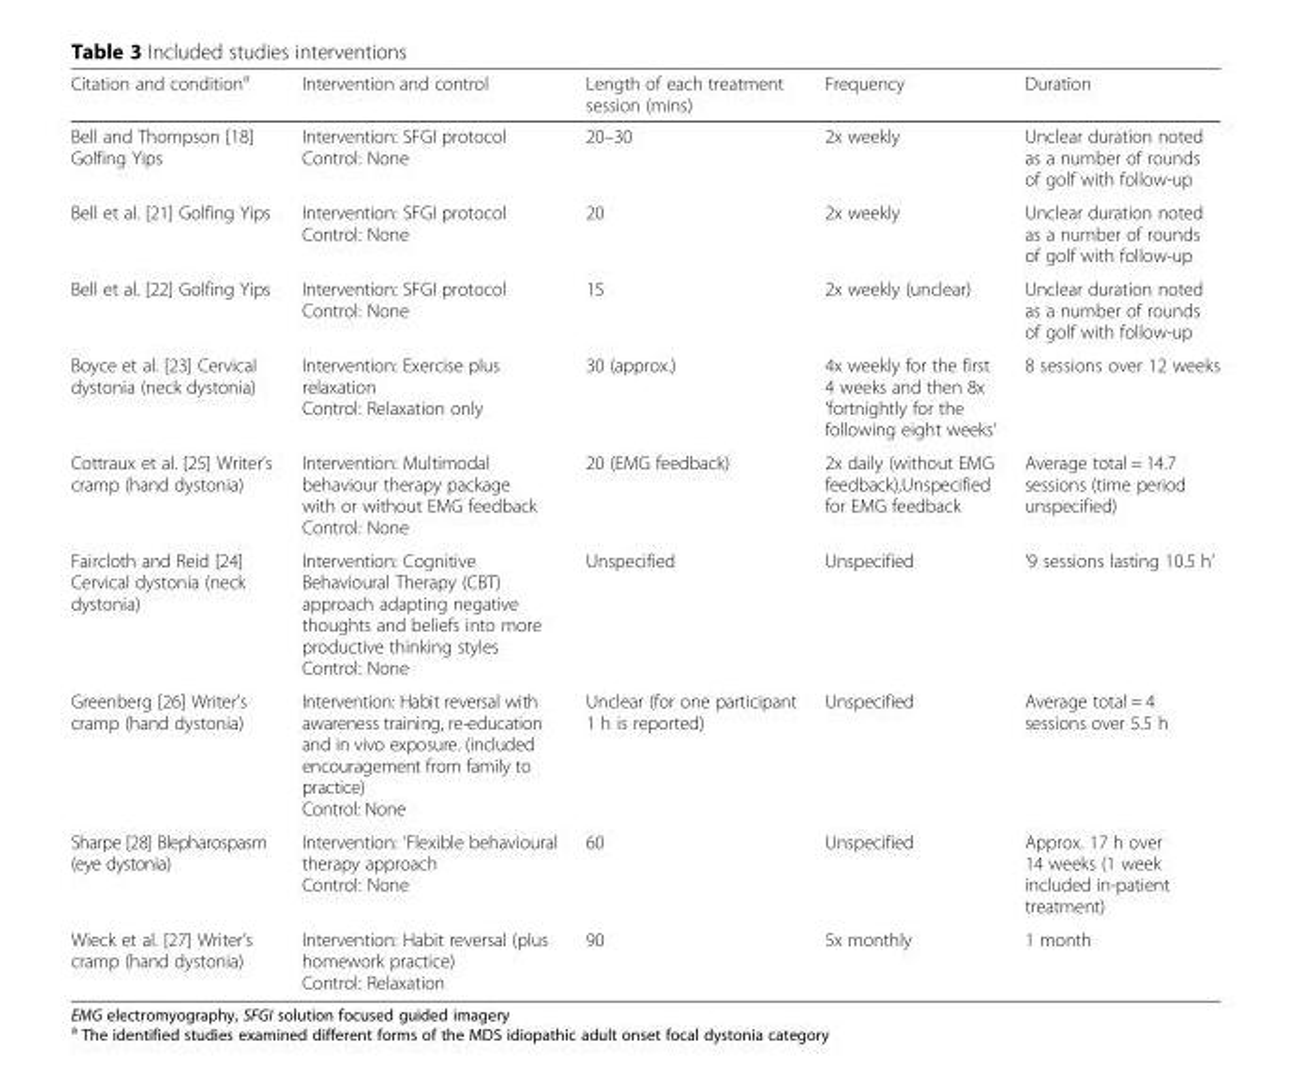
<table><thead><tr><td>Citation and condition<sup>a</sup></td><td>Intervention and control</td><td>Length of each treatment session (mins)</td><td>Frequency</td><td>Duration</td></tr></thead><tbody><tr><td>Bell and Thompson [18] Golfing Yips</td><td>Intervention: SFGI protocol Control: None</td><td>20–30</td><td>2x weekly</td><td>Unclear duration noted as a number of rounds of golf with follow-up</td></tr><tr><td>Bell et al. [21] Golfing Yips</td><td>Intervention: SFGI protocol Control: None</td><td>20</td><td>2x weekly</td><td>Unclear duration noted as a number of rounds of golf with follow-up</td></tr><tr><td>Bell et al. [22] Golfing Yips</td><td>Intervention: SFGI protocol Control: None</td><td>15</td><td>2x weekly (unclear)</td><td>Unclear duration noted as a number of rounds of golf with follow-up</td></tr><tr><td>Boyce et al. [23] Cervical dystonia (neck dystonia)</td><td>Intervention: Exercise plus relaxation Control: Relaxation only</td><td>30 (approx.)</td><td>4x weekly for the first 4 weeks and then 8x ‘fortnightly for the following eight weeks’</td><td>8 sessions over 12 weeks</td></tr><tr><td>Cottraux et al. [25] Writer’s cramp (hand dystonia)</td><td>Intervention: Multimodal behaviour therapy package with or without EMG feedback Control: None</td><td>20 (EMG feedback)</td><td>2x daily (without EMG feedback),Unspecified for EMG feedback</td><td>Average total = 14.7 sessions (time period unspecified)</td></tr><tr><td>Faircloth and Reid [24] Cervical dystonia (neck dystonia)</td><td>Intervention: Cognitive Behavioural Therapy (CBT) approach adapting negative thoughts and beliefs into more productive thinking styles Control: None</td><td>Unspecified</td><td>Unspecified</td><td>‘9 sessions lasting 10.5 h’</td></tr><tr><td>Greenberg [26] Writer’s cramp (hand dystonia)</td><td>Intervention: Habit reversal with awareness training, re-education and in vivo exposure. (included encouragement from family to practice) Control: None</td><td>Unclear (for one participant 1 h is reported)</td><td>Unspecified</td><td>Average total = 4 sessions over 5.5 h</td></tr><tr><td>Sharpe [28] Blepharospasm (eye dystonia)</td><td>Intervention: ‘Flexible behavioural therapy approach Control: None</td><td>60</td><td>Unspecified</td><td>Approx. 17 h over 14 weeks (1 week included in-patient treatment)</td></tr><tr><td>Wieck et al. [27] Writer’s cramp (hand dystonia)</td><td>Intervention: Habit reversal (plus homework practice) Control: Relaxation</td><td>90</td><td>5x monthly</td><td>1 month</td></tr></tbody></table>